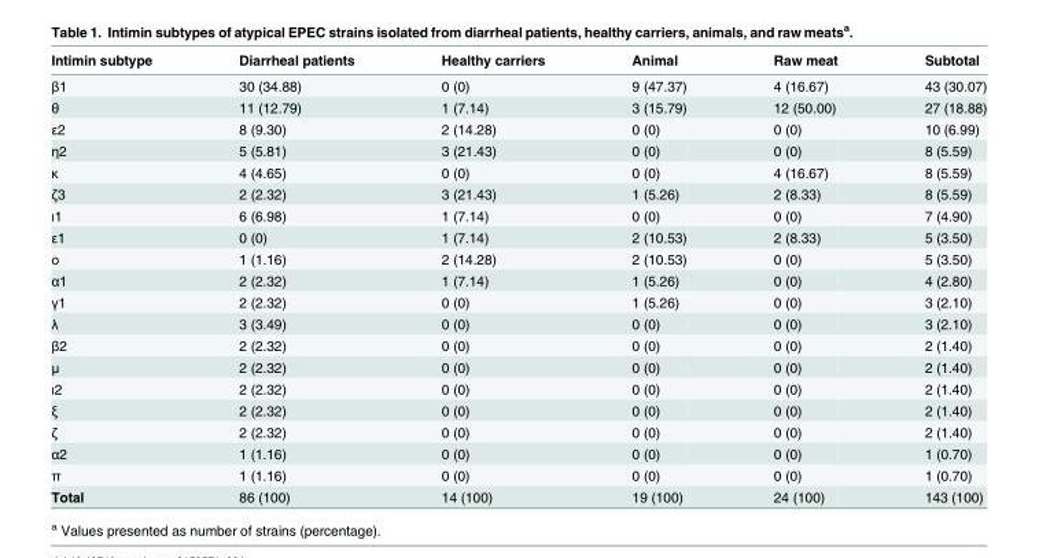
<table><thead><tr><td>Intimin subtype</td><td>Diarrheal patients</td><td>Healthy carriers</td><td>Animal</td><td>Raw meat</td><td>Subtotal</td></tr></thead><tbody><tr><td>β1</td><td>30 (34.88)</td><td>0 (0)</td><td>9 (47.37)</td><td>4 (16.67)</td><td>43 (30.07)</td></tr><tr><td>θ</td><td>11 (12.79)</td><td>1 (7.14)</td><td>3 (15.79)</td><td>12 (50.00)</td><td>27 (18.88)</td></tr><tr><td>ε2</td><td>8 (9.30)</td><td>2 (14.28)</td><td>0 (0)</td><td>0 (0)</td><td>10 (6.99)</td></tr><tr><td>η2</td><td>5 (5.81)</td><td>3 (21.43)</td><td>0 (0)</td><td>0 (0)</td><td>8 (5.59)</td></tr><tr><td>κ</td><td>4 (4.65)</td><td>0 (0)</td><td>0 (0)</td><td>4 (16.67)</td><td>8 (5.59)</td></tr><tr><td>ζ3</td><td>2 (2.32)</td><td>3 (21.43)</td><td>1 (5.26)</td><td>2 (8.33)</td><td>8 (5.59)</td></tr><tr><td>ι1</td><td>6 (6.98)</td><td>1 (7.14)</td><td>0 (0)</td><td>0 (0)</td><td>7 (4.90)</td></tr><tr><td>ε1</td><td>0 (0)</td><td>1 (7.14)</td><td>2 (10.53)</td><td>2 (8.33)</td><td>5 (3.50)</td></tr><tr><td>ο</td><td>1 (1.16)</td><td>2 (14.28)</td><td>2 (10.53)</td><td>0 (0)</td><td>5 (3.50)</td></tr><tr><td>α1</td><td>2 (2.32)</td><td>1 (7.14)</td><td>1 (5.26)</td><td>0 (0)</td><td>4 (2.80)</td></tr><tr><td>γ1</td><td>2 (2.32)</td><td>0 (0)</td><td>1 (5.26)</td><td>0 (0)</td><td>3 (2.10)</td></tr><tr><td>λ</td><td>3 (3.49)</td><td>0 (0)</td><td>0 (0)</td><td>0 (0)</td><td>3 (2.10)</td></tr><tr><td>β2</td><td>2 (2.32)</td><td>0 (0)</td><td>0 (0)</td><td>0 (0)</td><td>2 (1.40)</td></tr><tr><td>μ</td><td>2 (2.32)</td><td>0 (0)</td><td>0 (0)</td><td>0 (0)</td><td>2 (1.40)</td></tr><tr><td>ι2</td><td>2 (2.32)</td><td>0 (0)</td><td>0 (0)</td><td>0 (0)</td><td>2 (1.40)</td></tr><tr><td>ξ</td><td>2 (2.32)</td><td>0 (0)</td><td>0 (0)</td><td>0 (0)</td><td>2 (1.40)</td></tr><tr><td>ζ</td><td>2 (2.32)</td><td>0 (0)</td><td>0 (0)</td><td>0 (0)</td><td>2 (1.40)</td></tr><tr><td>α2</td><td>1 (1.16)</td><td>0 (0)</td><td>0 (0)</td><td>0 (0)</td><td>1 (0.70)</td></tr><tr><td>π</td><td>1 (1.16)</td><td>0 (0)</td><td>0 (0)</td><td>0 (0)</td><td>1 (0.70)</td></tr><tr><td>Total</td><td>86 (100)</td><td>14 (100)</td><td>19 (100)</td><td>24 (100)</td><td>143 (100)</td></tr></tbody></table>